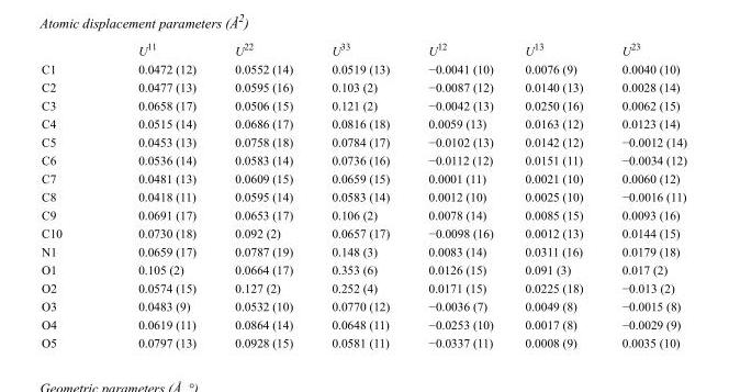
<table><thead><tr><td></td><td>U<sup>11</sup></td><td>U<sup>22</sup></td><td>U<sup>33</sup></td><td>U<sup>12</sup></td><td>U<sup>13</sup></td><td>U<sup>23</sup></td></tr></thead><tbody><tr><td>C1</td><td>0.0472 (12)</td><td>0.0552 (14)</td><td>0.0519 (13)</td><td>−0.0041 (10)</td><td>0.0076 (9)</td><td>0.0040 (10)</td></tr><tr><td>C2</td><td>0.0477 (13)</td><td>0.0595 (16)</td><td>0.103 (2)</td><td>−0.0087 (12)</td><td>0.0140 (13)</td><td>0.0028 (14)</td></tr><tr><td>C3</td><td>0.0658 (17)</td><td>0.0506 (15)</td><td>0.121 (2)</td><td>−0.0042 (13)</td><td>0.0250 (16)</td><td>0.0062 (15)</td></tr><tr><td>C4</td><td>0.0515 (14)</td><td>0.0686 (17)</td><td>0.0816 (18)</td><td>0.0059 (13)</td><td>0.0163 (12)</td><td>0.0123 (14)</td></tr><tr><td>C5</td><td>0.0453 (13)</td><td>0.0758 (18)</td><td>0.0784 (17)</td><td>−0.0102 (13)</td><td>0.0142 (12)</td><td>−0.0012 (14)</td></tr><tr><td>C6</td><td>0.0536 (14)</td><td>0.0583 (14)</td><td>0.0736 (16)</td><td>−0.0112 (12)</td><td>0.0151 (11)</td><td>−0.0034 (12)</td></tr><tr><td>C7</td><td>0.0481 (13)</td><td>0.0609 (15)</td><td>0.0659 (15)</td><td>0.0001 (11)</td><td>0.0021 (10)</td><td>0.0060 (12)</td></tr><tr><td>C8</td><td>0.0418 (11)</td><td>0.0595 (14)</td><td>0.0583 (14)</td><td>0.0012 (10)</td><td>0.0025 (10)</td><td>−0.0016 (11)</td></tr><tr><td>C9</td><td>0.0691 (17)</td><td>0.0653 (17)</td><td>0.106 (2)</td><td>0.0078 (14)</td><td>0.0085 (15)</td><td>0.0093 (16)</td></tr><tr><td>C10</td><td>0.0730 (18)</td><td>0.092 (2)</td><td>0.0657 (17)</td><td>−0.0098 (16)</td><td>0.0012 (13)</td><td>0.0144 (15)</td></tr><tr><td>N1</td><td>0.0659 (17)</td><td>0.0787 (19)</td><td>0.148 (3)</td><td>0.0083 (14)</td><td>0.0311 (16)</td><td>0.0179 (18)</td></tr><tr><td>O1</td><td>0.105 (2)</td><td>0.0664 (17)</td><td>0.353 (6)</td><td>0.0126 (15)</td><td>0.091 (3)</td><td>0.017 (2)</td></tr><tr><td>O2</td><td>0.0574 (15)</td><td>0.127 (2)</td><td>0.252 (4)</td><td>0.0171 (15)</td><td>0.0225 (18)</td><td>−0.013 (2)</td></tr><tr><td>O3</td><td>0.0483 (9)</td><td>0.0532 (10)</td><td>0.0770 (12)</td><td>−0.0036 (7)</td><td>0.0049 (8)</td><td>−0.0015 (8)</td></tr><tr><td>O4</td><td>0.0619 (11)</td><td>0.0864 (14)</td><td>0.0648 (11)</td><td>−0.0253 (10)</td><td>0.0017 (8)</td><td>−0.0029 (9)</td></tr><tr><td>O5</td><td>0.0797 (13)</td><td>0.0928 (15)</td><td>0.0581 (11)</td><td>−0.0337 (11)</td><td>0.0008 (9)</td><td>0.0035 (10)</td></tr></tbody></table>